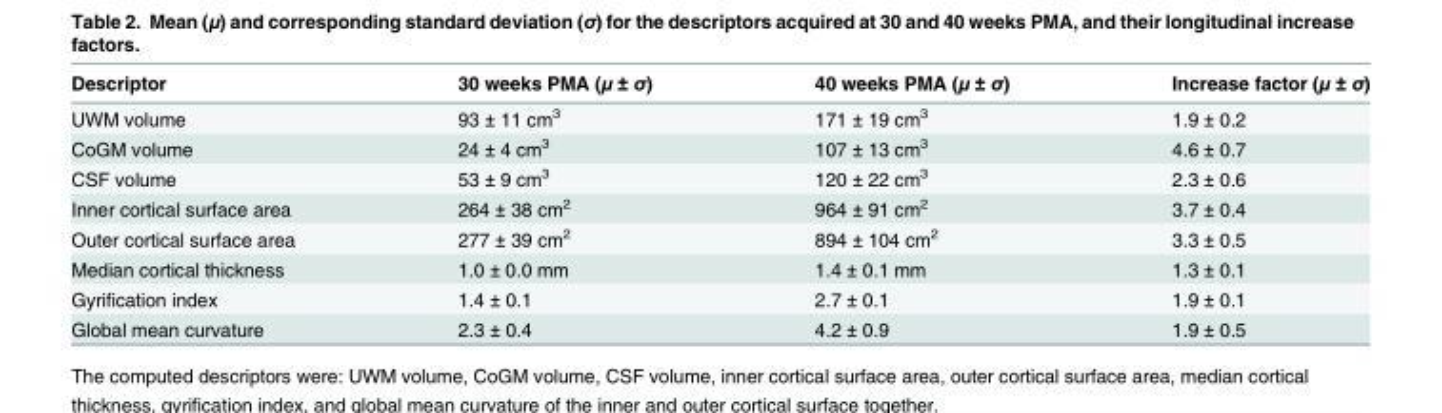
<table><thead><tr><td>Descriptor</td><td>30 weeks PMA (μ ± σ)</td><td>40 weeks PMA (μ ± σ)</td><td>Increase factor (μ ± σ)</td></tr></thead><tbody><tr><td>UWM volume</td><td>93 ± 11 cm<sup>3</sup></td><td>171 ± 19 cm<sup>3</sup></td><td>1.9 ± 0.2</td></tr><tr><td>CoGM volume</td><td>24 ± 4 cm<sup>3</sup></td><td>107 ± 13 cm<sup>3</sup></td><td>4.6 ± 0.7</td></tr><tr><td>CSF volume</td><td>53 ± 9 cm<sup>3</sup></td><td>120 ± 22 cm<sup>3</sup></td><td>2.3 ± 0.6</td></tr><tr><td>Inner cortical surface area</td><td>264 ± 38 cm<sup>2</sup></td><td>964 ± 91 cm<sup>2</sup></td><td>3.7 ± 0.4</td></tr><tr><td>Outer cortical surface area</td><td>277 ± 39 cm<sup>2</sup></td><td>894 ± 104 cm<sup>2</sup></td><td>3.3 ± 0.5</td></tr><tr><td>Median cortical thickness</td><td>1.0 ± 0.0 mm</td><td>1.4 ± 0.1 mm</td><td>1.3 ± 0.1</td></tr><tr><td>Gyrification index</td><td>1.4 ± 0.1</td><td>2.7 ± 0.1</td><td>1.9 ± 0.1</td></tr><tr><td>Global mean curvature</td><td>2.3 ± 0.4</td><td>4.2 ± 0.9</td><td>1.9 ± 0.5</td></tr></tbody></table>